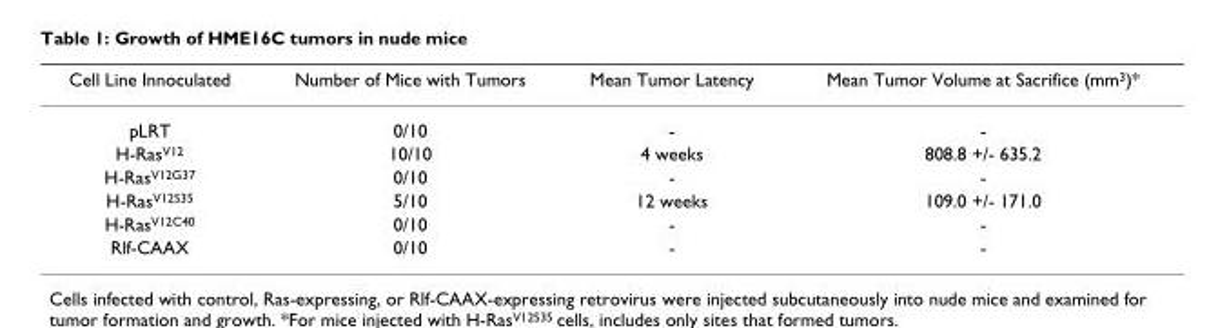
<table><thead><tr><td>Cell Line Innoculated</td><td>Number of Mice with Tumors</td><td>Mean Tumor Latency</td><td>Mean Tumor Volume at Sacrifice (mm<sup>3</sup>)*</td></tr></thead><tbody><tr><td>pLRT</td><td>0/10</td><td>-</td><td>-</td></tr><tr><td>H-Ras<sup>V12</sup></td><td>10/10</td><td>4 weeks</td><td>808.8 +/- 635.2</td></tr><tr><td>H-Ras<sup>V12G37</sup></td><td>0/10</td><td>-</td><td>-</td></tr><tr><td>H-Ras<sup>V12S35</sup></td><td>5/10</td><td>12 weeks</td><td>109.0 +/- 171.0</td></tr><tr><td>H-Ras<sup>V12C40</sup></td><td>0/10</td><td>-</td><td>-</td></tr><tr><td>Rlf-CAAX</td><td>0/10</td><td>-</td><td>-</td></tr></tbody></table>